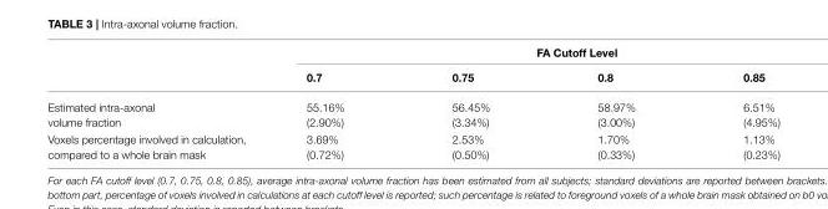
<table><thead><tr><td rowspan="2"></td><td colspan="4">FA Cutoff Level</td></tr><tr><td>0.7</td><td>0.75</td><td>0.8</td><td>0.85</td></tr></thead><tbody><tr><td>Estimated intra-axonal volume fraction</td><td>55.16% (2.90%)</td><td>56.45% (3.34%)</td><td>58.97% (3.00%)</td><td>6.51% (4.95%)</td></tr><tr><td>Voxels percentage involved in calculation, compared to a whole brain mask</td><td>3.69% (0.72%)</td><td>2.53% (0.50%)</td><td>1.70% (0.33%)</td><td>1.13% (0.23%)</td></tr></tbody></table>